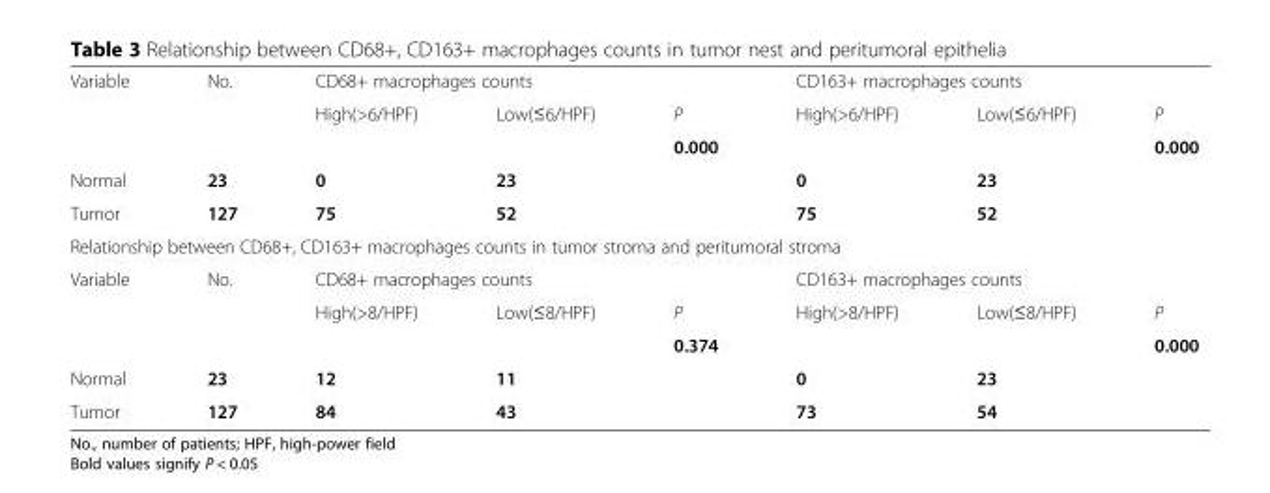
<table><tbody><tr><td rowspan="3">Variable</td><td rowspan="2">No.</td><td colspan="3">CD68+ macrophages counts</td><td colspan="3">CD163+ macrophages counts</td></tr><tr><td>High(&gt;6/HPF)</td><td>Low(≤6/HPF)</td><td>P</td><td>High(&gt;6/HPF)</td><td>Low(≤6/HPF)</td><td>P</td></tr><tr><td></td><td></td><td></td><td>0.000</td><td></td><td></td><td>0.000</td></tr><tr><td>Normal</td><td>23</td><td>0</td><td>23</td><td></td><td>0</td><td>23</td><td></td></tr><tr><td>Tumor</td><td>127</td><td>75</td><td>52</td><td></td><td>75</td><td>52</td><td></td></tr><tr><td colspan="8">Relationship between CD68+, CD163+ macrophages counts in tumor stroma and peritumoral stroma</td></tr><tr><td rowspan="3">Variable</td><td rowspan="2">No.</td><td colspan="3">CD68+ macrophages counts</td><td colspan="3">CD163+ macrophages counts</td></tr><tr><td>High(&gt;8/HPF)</td><td>Low(≤8/HPF)</td><td>P</td><td>High(&gt;8/HPF)</td><td>Low(≤8/HPF)</td><td>P</td></tr><tr><td></td><td></td><td></td><td>0.374</td><td></td><td></td><td>0.000</td></tr><tr><td>Normal</td><td>23</td><td>12</td><td>11</td><td></td><td>0</td><td>23</td><td></td></tr><tr><td>Tumor</td><td>127</td><td>84</td><td>43</td><td></td><td>73</td><td>54</td><td></td></tr></tbody></table>